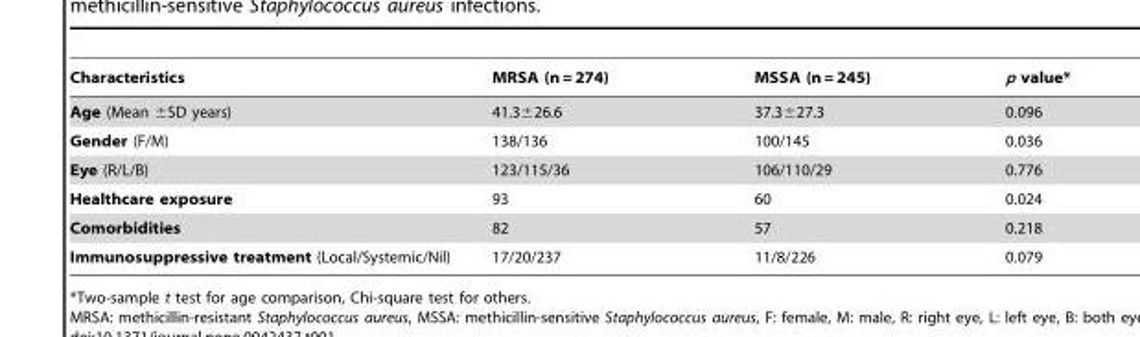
<table><thead><tr><td>Characteristics</td><td>MRSA (n = 274)</td><td>MSSA (n = 245)</td><td>p value*</td></tr></thead><tbody><tr><td>Age (Mean ±SD years)</td><td>41.3±26.6</td><td>37.3±27.3</td><td>0.096</td></tr><tr><td>Gender (F/M)</td><td>138/136</td><td>100/145</td><td>0.036</td></tr><tr><td>Eye (R/L/B)</td><td>123/115/36</td><td>106/110/29</td><td>0.776</td></tr><tr><td>Healthcare exposure</td><td>93</td><td>60</td><td>0.024</td></tr><tr><td>Comorbidities</td><td>82</td><td>57</td><td>0.218</td></tr><tr><td>Immunosuppressive treatment (Local/Systemic/Nil)</td><td>17/20/237</td><td>11/8/226</td><td>0.079</td></tr></tbody></table>